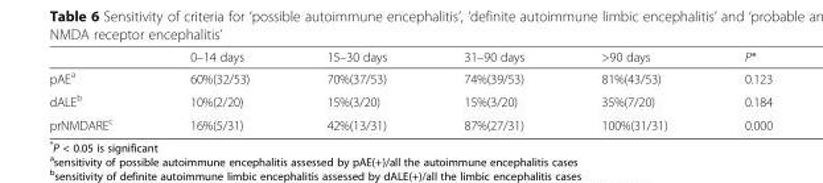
<table><thead><tr><td></td><td>0–14 days</td><td>15–30 days</td><td>31–90 days</td><td>&gt;90 days</td><td>P*</td></tr></thead><tbody><tr><td>pAE<sup>a</sup></td><td>60%(32/53)</td><td>70%(37/53)</td><td>74%(39/53)</td><td>81%(43/53)</td><td>0.123</td></tr><tr><td>dALE<sup>b</sup></td><td>10%(2/20)</td><td>15%(3/20)</td><td>15%(3/20)</td><td>35%(7/20)</td><td>0.184</td></tr><tr><td>prNMDARE<sup>c</sup></td><td>16%(5/31)</td><td>42%(13/31)</td><td>87%(27/31)</td><td>100%(31/31)</td><td>0.000</td></tr></tbody></table>